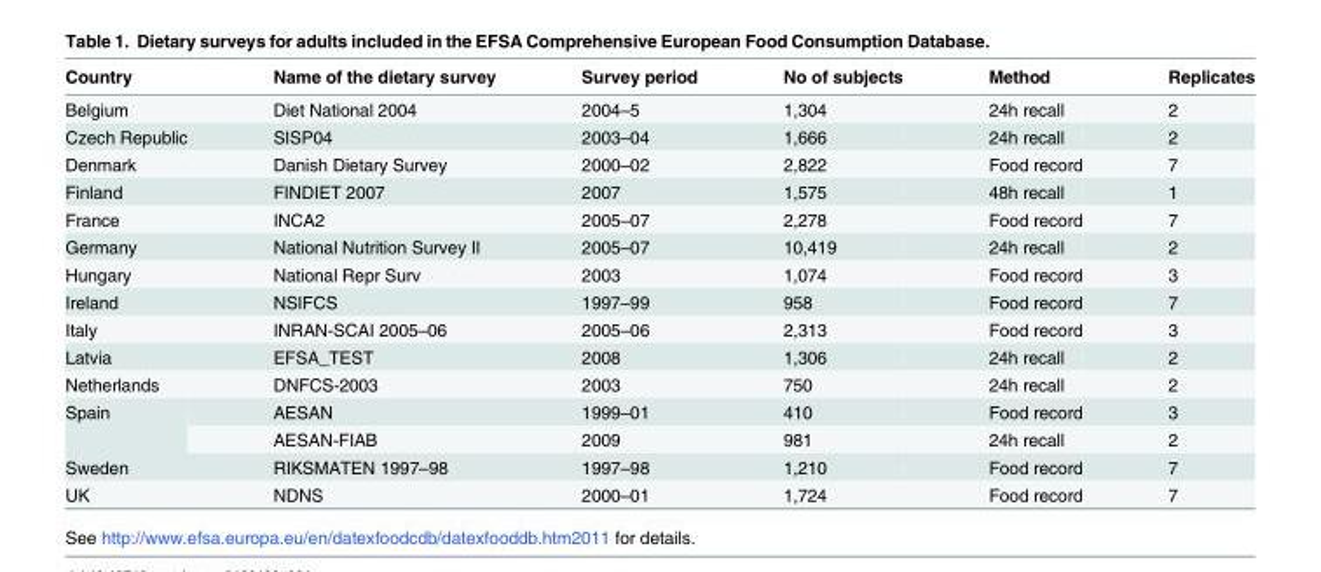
<table><thead><tr><td>Country</td><td>Name of the dietary survey</td><td>Survey period</td><td>No of subjects</td><td>Method</td><td>Replicates</td></tr></thead><tbody><tr><td>Belgium</td><td>Diet National 2004</td><td>2004–5</td><td>1,304</td><td>24h recall</td><td>2</td></tr><tr><td>Czech Republic</td><td>SISP04</td><td>2003–04</td><td>1,666</td><td>24h recall</td><td>2</td></tr><tr><td>Denmark</td><td>Danish Dietary Survey</td><td>2000–02</td><td>2,822</td><td>Food record</td><td>7</td></tr><tr><td>Finland</td><td>FINDIET 2007</td><td>2007</td><td>1,575</td><td>48h recall</td><td>1</td></tr><tr><td>France</td><td>INCA2</td><td>2005–07</td><td>2,278</td><td>Food record</td><td>7</td></tr><tr><td>Germany</td><td>National Nutrition Survey II</td><td>2005–07</td><td>10,419</td><td>24h recall</td><td>2</td></tr><tr><td>Hungary</td><td>National Repr Surv</td><td>2003</td><td>1,074</td><td>Food record</td><td>3</td></tr><tr><td>Ireland</td><td>NSIFCS</td><td>1997–99</td><td>958</td><td>Food record</td><td>7</td></tr><tr><td>Italy</td><td>INRAN-SCAI 2005–06</td><td>2005–06</td><td>2,313</td><td>Food record</td><td>3</td></tr><tr><td>Latvia</td><td>EFSA_TEST</td><td>2008</td><td>1,306</td><td>24h recall</td><td>2</td></tr><tr><td>Netherlands</td><td>DNFCS-2003</td><td>2003</td><td>750</td><td>24h recall</td><td>2</td></tr><tr><td rowspan="2">Spain</td><td>AESAN</td><td>1999–01</td><td>410</td><td>Food record</td><td>3</td></tr><tr><td>AESAN-FIAB</td><td>2009</td><td>981</td><td>24h recall</td><td>2</td></tr><tr><td>Sweden</td><td>RIKSMATEN 1997–98</td><td>1997–98</td><td>1,210</td><td>Food record</td><td>7</td></tr><tr><td>UK</td><td>NDNS</td><td>2000–01</td><td>1,724</td><td>Food record</td><td>7</td></tr></tbody></table>